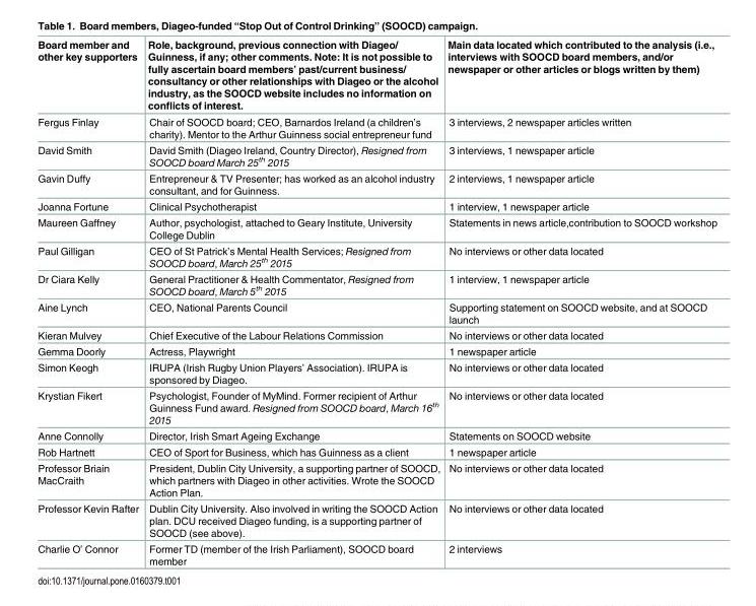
<table><thead><tr><td>Board member and other key supporters</td><td>Role, background, previous connection with Diageo/ Guinness, if any; other comments. Note: It is not possible to fully ascertain board members’ past/current business/ consultancy or other relationships with Diageo or the alcohol industry, as the SOOCD website includes no information on conflicts of interest.</td><td>Main data located which contributed to the analysis (i.e., interviews with SOOCD board members, and/or newspaper or other articles or blogs written by them)</td></tr></thead><tbody><tr><td>Fergus Finlay</td><td>Chair of SOOCD board; CEO, Barnardos Ireland (a children’s charity). Mentor to the Arthur Guinness social entrepreneur fund</td><td>3 interviews, 2 newspaper articles written</td></tr><tr><td>David Smith</td><td>David Smith (Diageo Ireland, Country Director), Resigned from SOOCD board March 25<sup>th</sup> 2015</td><td>3 interviews, 1 newspaper article</td></tr><tr><td>Gavin Duffy</td><td>Entrepreneur &amp; TV Presenter; has worked as an alcohol industry consultant, and for Guinness.</td><td>2 interviews, 1 newspaper article</td></tr><tr><td>Joanna Fortune</td><td>Clinical Psychotherapist</td><td>1 interview, 1 newspaper article</td></tr><tr><td>Maureen Gaffney</td><td>Author, psychologist, attached to Geary Institute, University College Dublin</td><td>Statements in news article,contribution to SOOCD workshop</td></tr><tr><td>Paul Gilligan</td><td>CEO of St Patrick’s Mental Health Services; Resigned from SOOCD board, March 25<sup>th</sup> 2015</td><td>No interviews or other data located</td></tr><tr><td>Dr Ciara Kelly</td><td>General Practitioner &amp; Health Commentator, Resigned from SOOCD board, March 5<sup>th</sup> 2015</td><td>1 interview, 1 newspaper article</td></tr><tr><td>Aine Lynch</td><td>CEO, National Parents Council</td><td>Supporting statement on SOOCD website, and at SOOCD launch</td></tr><tr><td>Kieran Mulvey</td><td>Chief Executive of the Labour Relations Commission</td><td>No interviews or other data located</td></tr><tr><td>Gemma Doorly</td><td>Actress, Playwright</td><td>1 newspaper article</td></tr><tr><td>Simon Keogh</td><td>IRUPA (Irish Rugby Union Players’ Association). IRUPA is sponsored by Diageo.</td><td>No interviews or other data located</td></tr><tr><td>Krystian Fikert</td><td>Psychologist, Founder of MyMind. Former recipient of Arthur Guinness Fund award. Resigned from SOOCD board, March 16<sup>th</sup> 2015</td><td>No interviews or other data located</td></tr><tr><td>Anne Connolly</td><td>Director, Irish Smart Ageing Exchange</td><td>Statements on SOOCD website</td></tr><tr><td>Rob Hartnett</td><td>CEO of Sport for Business, which has Guinness as a client</td><td>1 newspaper article</td></tr><tr><td>Professor Briain MacCraith</td><td>President, Dublin City University, a supporting partner of SOOCD, which partners with Diageo in other activities. Wrote the SOOCD Action Plan.</td><td>No interviews or other data located</td></tr><tr><td>Professor Kevin Rafter</td><td>Dublin City University. Also involved in writing the SOOCD Action plan. DCU received Diageo funding, is a supporting partner of SOOCD (see above).</td><td>No interviews or other data located</td></tr><tr><td>Charlie O’ Connor</td><td>Former TD (member of the Irish Parliament), SOOCD board member</td><td>2 interviews</td></tr></tbody></table>